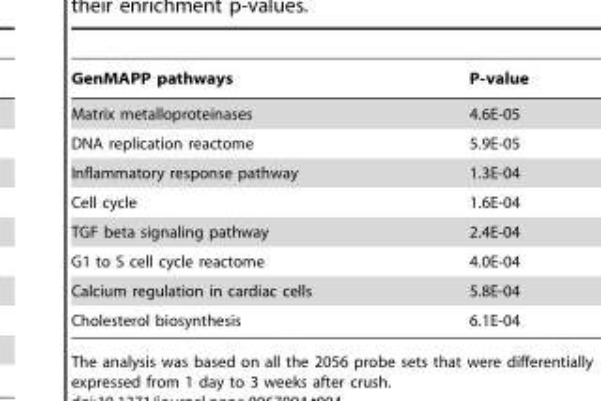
<table><thead><tr><td>GenMAPP pathways</td><td>P-value</td></tr></thead><tbody><tr><td>Matrix metalloproteinases</td><td>4.6E-05</td></tr><tr><td>DNA replication reactome</td><td>5.9E-05</td></tr><tr><td>Inflammatory response pathway</td><td>1.3E-04</td></tr><tr><td>Cell cycle</td><td>1.6E-04</td></tr><tr><td>TGF beta signaling pathway</td><td>2.4E-04</td></tr><tr><td>G1 to S cell cycle reactome</td><td>4.0E-04</td></tr><tr><td>Calcium regulation in cardiac cells</td><td>5.8E-04</td></tr><tr><td>Cholesterol biosynthesis</td><td>6.1E-04</td></tr></tbody></table>